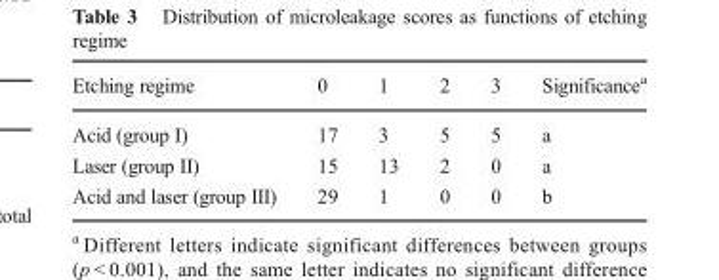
<table><thead><tr><td>Etching regime</td><td>0</td><td>1</td><td>2</td><td>3</td><td>Significance<sup>a</sup></td></tr></thead><tbody><tr><td>Acid (group I)</td><td>17</td><td>3</td><td>5</td><td>5</td><td>a</td></tr><tr><td>Laser (group II)</td><td>15</td><td>13</td><td>2</td><td>0</td><td>a</td></tr><tr><td>Acid and laser (group III)</td><td>29</td><td>1</td><td>0</td><td>0</td><td>b</td></tr></tbody></table>